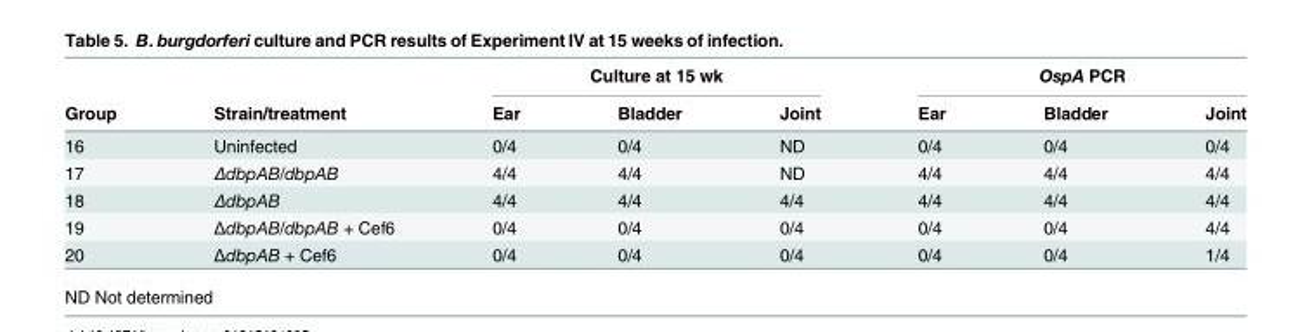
<table><thead><tr><td rowspan="2">Group</td><td rowspan="2">Strain/treatment</td><td colspan="3">Culture at 15 wk</td><td colspan="3">OspA PCR</td></tr><tr><td>Ear</td><td>Bladder</td><td>Joint</td><td>Ear</td><td>Bladder</td><td>Joint</td></tr></thead><tbody><tr><td>16</td><td>Uninfected</td><td>0/4</td><td>0/4</td><td>ND</td><td>0/4</td><td>0/4</td><td>0/4</td></tr><tr><td>17</td><td>ΔdbpAB/dbpAB</td><td>4/4</td><td>4/4</td><td>ND</td><td>4/4</td><td>4/4</td><td>4/4</td></tr><tr><td>18</td><td>ΔdbpAB</td><td>4/4</td><td>4/4</td><td>4/4</td><td>4/4</td><td>4/4</td><td>4/4</td></tr><tr><td>19</td><td>ΔdbpAB/dbpAB + Cef6</td><td>0/4</td><td>0/4</td><td>0/4</td><td>0/4</td><td>0/4</td><td>4/4</td></tr><tr><td>20</td><td>ΔdbpAB + Cef6</td><td>0/4</td><td>0/4</td><td>0/4</td><td>0/4</td><td>0/4</td><td>1/4</td></tr></tbody></table>